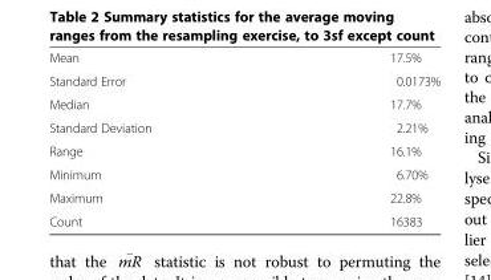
<table><tbody><tr><td>Mean</td><td>17.5%</td></tr><tr><td>Standard Error</td><td>0.0173%</td></tr><tr><td>Median</td><td>17.7%</td></tr><tr><td>Standard Deviation</td><td>2.21%</td></tr><tr><td>Range</td><td>16.1%</td></tr><tr><td>Minimum</td><td>6.70%</td></tr><tr><td>Maximum</td><td>22.8%</td></tr><tr><td>Count</td><td>16383</td></tr></tbody></table>